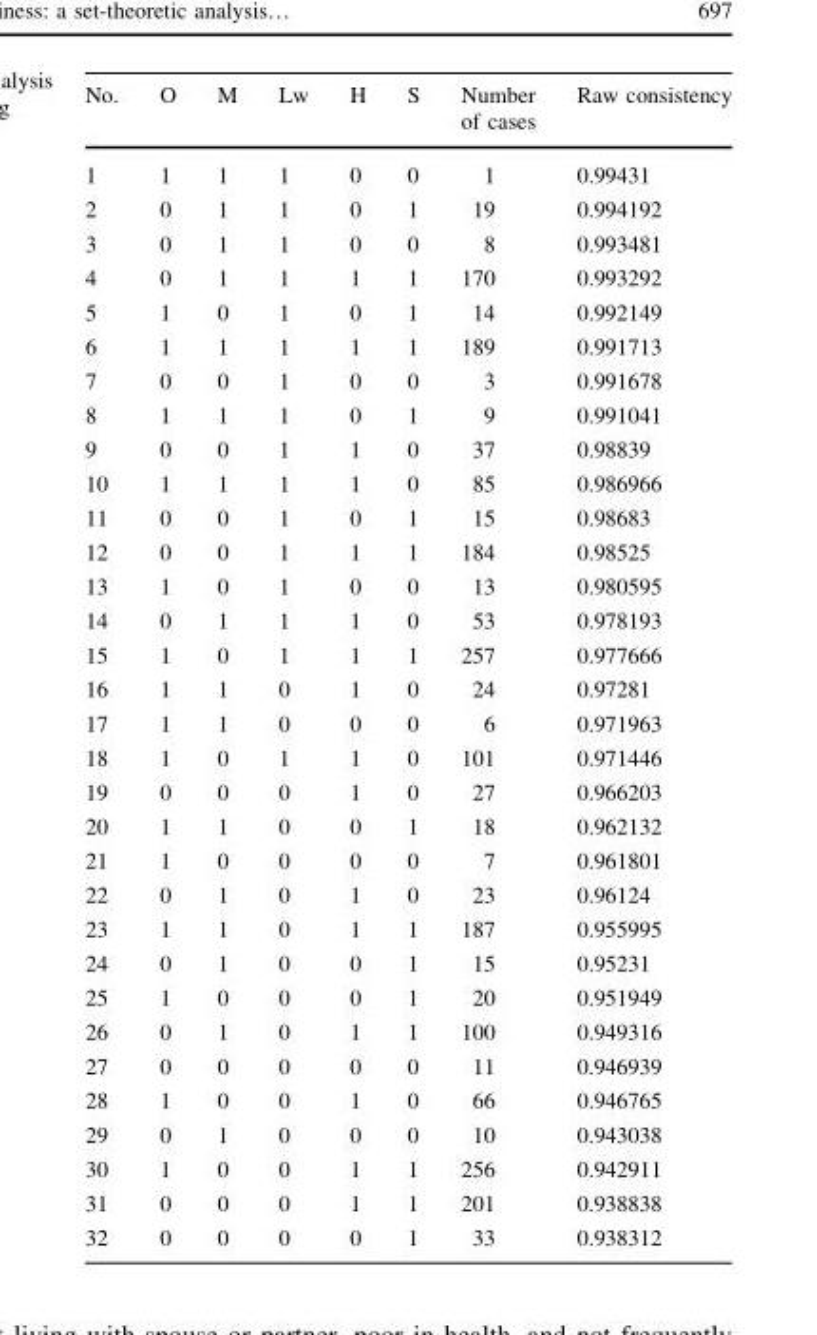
<table><thead><tr><td>No.</td><td>O</td><td>M</td><td>Lw</td><td>H</td><td>S</td><td>Number of cases</td><td>Raw consistency</td></tr></thead><tbody><tr><td>1</td><td>1</td><td>1</td><td>1</td><td>0</td><td>0</td><td>1</td><td>0.99431</td></tr><tr><td>2</td><td>0</td><td>1</td><td>1</td><td>0</td><td>1</td><td>19</td><td>0.994192</td></tr><tr><td>3</td><td>0</td><td>1</td><td>1</td><td>0</td><td>0</td><td>8</td><td>0.993481</td></tr><tr><td>4</td><td>0</td><td>1</td><td>1</td><td>1</td><td>1</td><td>170</td><td>0.993292</td></tr><tr><td>5</td><td>1</td><td>0</td><td>1</td><td>0</td><td>1</td><td>14</td><td>0.992149</td></tr><tr><td>6</td><td>1</td><td>1</td><td>1</td><td>1</td><td>1</td><td>189</td><td>0.991713</td></tr><tr><td>7</td><td>0</td><td>0</td><td>1</td><td>0</td><td>0</td><td>3</td><td>0.991678</td></tr><tr><td>8</td><td>1</td><td>1</td><td>1</td><td>0</td><td>1</td><td>9</td><td>0.991041</td></tr><tr><td>9</td><td>0</td><td>0</td><td>1</td><td>1</td><td>0</td><td>37</td><td>0.98839</td></tr><tr><td>10</td><td>1</td><td>1</td><td>1</td><td>1</td><td>0</td><td>85</td><td>0.986966</td></tr><tr><td>11</td><td>0</td><td>0</td><td>1</td><td>0</td><td>1</td><td>15</td><td>0.98683</td></tr><tr><td>12</td><td>0</td><td>0</td><td>1</td><td>1</td><td>1</td><td>184</td><td>0.98525</td></tr><tr><td>13</td><td>1</td><td>0</td><td>1</td><td>0</td><td>0</td><td>13</td><td>0.980595</td></tr><tr><td>14</td><td>0</td><td>1</td><td>1</td><td>1</td><td>0</td><td>53</td><td>0.978193</td></tr><tr><td>15</td><td>1</td><td>0</td><td>1</td><td>1</td><td>1</td><td>257</td><td>0.977666</td></tr><tr><td>16</td><td>1</td><td>1</td><td>0</td><td>1</td><td>0</td><td>24</td><td>0.97281</td></tr><tr><td>17</td><td>1</td><td>1</td><td>0</td><td>0</td><td>0</td><td>6</td><td>0.971963</td></tr><tr><td>18</td><td>1</td><td>0</td><td>1</td><td>1</td><td>0</td><td>101</td><td>0.971446</td></tr><tr><td>19</td><td>0</td><td>0</td><td>0</td><td>1</td><td>0</td><td>27</td><td>0.966203</td></tr><tr><td>20</td><td>1</td><td>1</td><td>0</td><td>0</td><td>1</td><td>18</td><td>0.962132</td></tr><tr><td>21</td><td>1</td><td>0</td><td>0</td><td>0</td><td>0</td><td>7</td><td>0.961801</td></tr><tr><td>22</td><td>0</td><td>1</td><td>0</td><td>1</td><td>0</td><td>23</td><td>0.96124</td></tr><tr><td>23</td><td>1</td><td>1</td><td>0</td><td>1</td><td>1</td><td>187</td><td>0.955995</td></tr><tr><td>24</td><td>0</td><td>1</td><td>0</td><td>0</td><td>1</td><td>15</td><td>0.95231</td></tr><tr><td>25</td><td>1</td><td>0</td><td>0</td><td>0</td><td>1</td><td>20</td><td>0.951949</td></tr><tr><td>26</td><td>0</td><td>1</td><td>0</td><td>1</td><td>1</td><td>100</td><td>0.949316</td></tr><tr><td>27</td><td>0</td><td>0</td><td>0</td><td>0</td><td>0</td><td>11</td><td>0.946939</td></tr><tr><td>28</td><td>1</td><td>0</td><td>0</td><td>1</td><td>0</td><td>66</td><td>0.946765</td></tr><tr><td>29</td><td>0</td><td>1</td><td>0</td><td>0</td><td>0</td><td>10</td><td>0.943038</td></tr><tr><td>30</td><td>1</td><td>0</td><td>0</td><td>1</td><td>1</td><td>256</td><td>0.942911</td></tr><tr><td>31</td><td>0</td><td>0</td><td>0</td><td>1</td><td>1</td><td>201</td><td>0.938838</td></tr><tr><td>32</td><td>0</td><td>0</td><td>0</td><td>0</td><td>1</td><td>33</td><td>0.938312</td></tr></tbody></table>